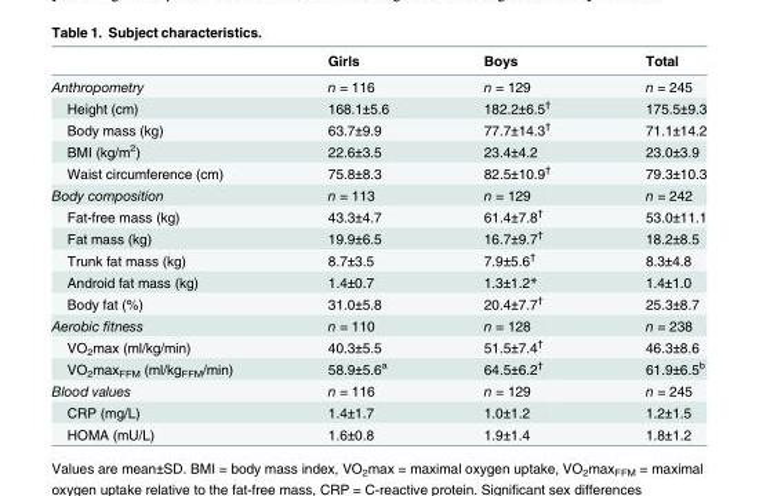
<table><thead><tr><td></td><td>Girls</td><td>Boys</td><td>Total</td></tr></thead><tbody><tr><td>Anthropometry</td><td>n = 116</td><td>n = 129</td><td>n = 245</td></tr><tr><td>Height (cm)</td><td>168.1±5.6</td><td>182.2±6.5<sup>†</sup></td><td>175.5±9.3</td></tr><tr><td>Body mass (kg)</td><td>63.7±9.9</td><td>77.7±14.3<sup>†</sup></td><td>71.1±14.2</td></tr><tr><td>BMI (kg/m<sup>2</sup>)</td><td>22.6±3.5</td><td>23.4±4.2</td><td>23.0±3.9</td></tr><tr><td>Waist circumference (cm)</td><td>75.8±8.3</td><td>82.5±10.9<sup>†</sup></td><td>79.3±10.3</td></tr><tr><td>Body composition</td><td>n = 113</td><td>n = 129</td><td>n = 242</td></tr><tr><td>Fat-free mass (kg)</td><td>43.3±4.7</td><td>61.4±7.8<sup>†</sup></td><td>53.0±11.1</td></tr><tr><td>Fat mass (kg)</td><td>19.9±6.5</td><td>16.7±9.7<sup>†</sup></td><td>18.2±8.5</td></tr><tr><td>Trunk fat mass (kg)</td><td>8.7±3.5</td><td>7.9±5.6<sup>†</sup></td><td>8.3±4.8</td></tr><tr><td>Android fat mass (kg)</td><td>1.4±0.7</td><td>1.3±1.2*</td><td>1.4±1.0</td></tr><tr><td>Body fat (%)</td><td>31.0±5.8</td><td>20.4±7.7<sup>†</sup></td><td>25.3±8.7</td></tr><tr><td>Aerobic fitness</td><td>n = 110</td><td>n = 128</td><td>n = 238</td></tr><tr><td>VO<sub>2</sub>max (ml/kg/min)</td><td>40.3±5.5</td><td>51.5±7.4<sup>†</sup></td><td>46.3±8.6</td></tr><tr><td>VO<sub>2</sub>max<sub>FFM</sub> (ml/kg<sub>FFM</sub>/min)</td><td>58.9±5.6<sup>a</sup></td><td>64.5±6.2<sup>†</sup></td><td>61.9±6.5<sup>b</sup></td></tr><tr><td>Blood values</td><td>n = 116</td><td>n = 129</td><td>n = 245</td></tr><tr><td>CRP (mg/L)</td><td>1.4±1.7</td><td>1.0±1.2</td><td>1.2±1.5</td></tr><tr><td>HOMA (mU/L)</td><td>1.6±0.8</td><td>1.9±1.4</td><td>1.8±1.2</td></tr></tbody></table>